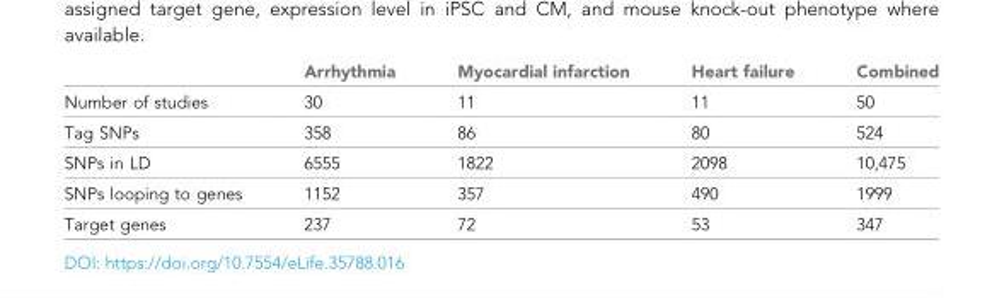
<table><thead><tr><td></td><td>Arrhythmia</td><td>Myocardial infarction</td><td>Heart failure</td><td>Combined</td></tr></thead><tbody><tr><td>Number of studies</td><td>30</td><td>11</td><td>11</td><td>50</td></tr><tr><td>Tag SNPs</td><td>358</td><td>86</td><td>80</td><td>524</td></tr><tr><td>SNPs in LD</td><td>6555</td><td>1822</td><td>2098</td><td>10,475</td></tr><tr><td>SNPs looping to genes</td><td>1152</td><td>357</td><td>490</td><td>1999</td></tr><tr><td>Target genes</td><td>237</td><td>72</td><td>53</td><td>347</td></tr></tbody></table>